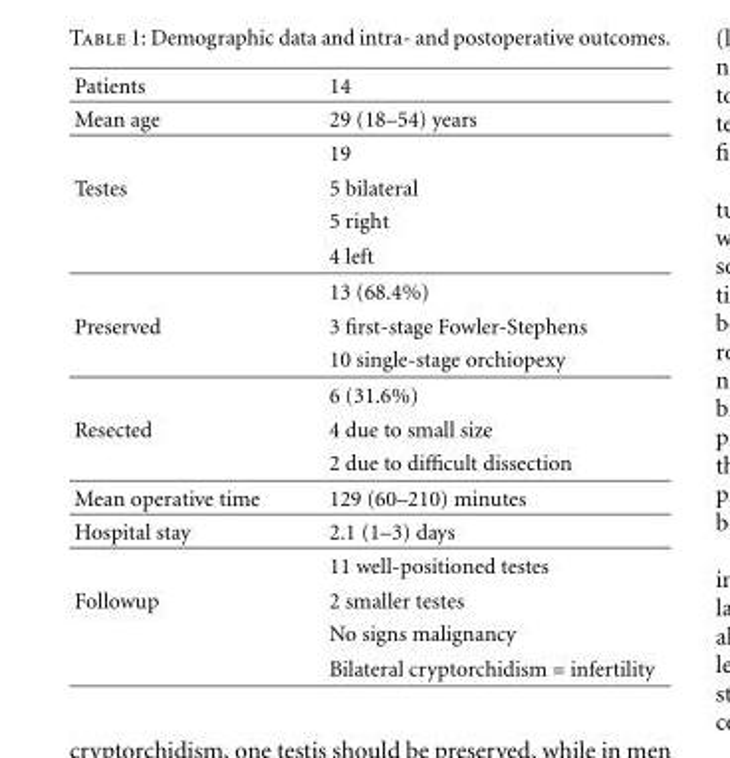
<table><tbody><tr><td>Patients</td><td>14</td></tr><tr><td rowspan="2">Mean age</td><td>29 (18–54) years</td></tr><tr><td>19</td></tr><tr><td rowspan="4">Testes</td><td>5 bilateral</td></tr><tr><td>5 right</td></tr><tr><td>4 left</td></tr><tr><td>13 (68.4%)</td></tr><tr><td rowspan="3">Preserved</td><td>3 first-stage Fowler-Stephens</td></tr><tr><td>10 single-stage orchiopexy</td></tr><tr><td>6 (31.6%)</td></tr><tr><td rowspan="2">Resected</td><td>4 due to small size</td></tr><tr><td>2 due to difficult dissection</td></tr><tr><td>Mean operative time</td><td>129 (60–210) minutes</td></tr><tr><td rowspan="2">Hospital stay</td><td>2.1 (1–3) days</td></tr><tr><td>11 well-positioned testes</td></tr><tr><td rowspan="3">Followup</td><td>2 smaller testes</td></tr><tr><td>No signs malignancy</td></tr><tr><td>Bilateral cryptorchidism = infertility</td></tr></tbody></table>